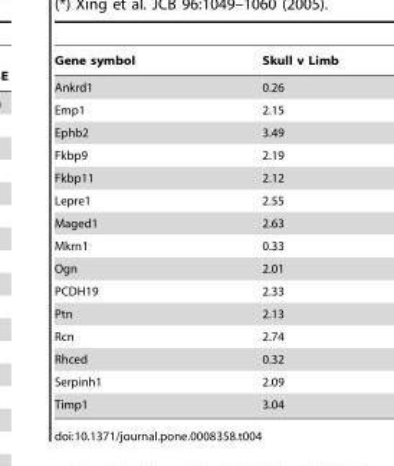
<table><thead><tr><td>Gene symbol</td><td>Skull v Limb</td></tr></thead><tbody><tr><td>Ankrd1</td><td>0.26</td></tr><tr><td>Emp1</td><td>2.15</td></tr><tr><td>Ephb2</td><td>3.49</td></tr><tr><td>Fkbp9</td><td>2.19</td></tr><tr><td>Fkbp11</td><td>2.12</td></tr><tr><td>Lepre1</td><td>2.55</td></tr><tr><td>Maged1</td><td>2.63</td></tr><tr><td>Mkrn1</td><td>0.33</td></tr><tr><td>Ogn</td><td>2.01</td></tr><tr><td>PCDH19</td><td>2.33</td></tr><tr><td>Ptn</td><td>2.13</td></tr><tr><td>Rcn</td><td>2.74</td></tr><tr><td>Rhced</td><td>0.32</td></tr><tr><td>Serpinh1</td><td>2.09</td></tr><tr><td>Timp1</td><td>3.04</td></tr></tbody></table>